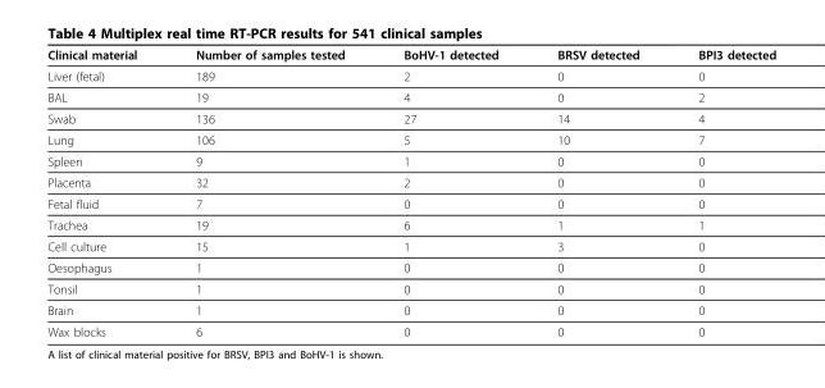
<table><thead><tr><td>Clinical material</td><td>Number of samples tested</td><td>BoHV-1 detected</td><td>BRSV detected</td><td>BPI3 detected</td></tr></thead><tbody><tr><td>Liver (fetal)</td><td>189</td><td>2</td><td>0</td><td>0</td></tr><tr><td>BAL</td><td>19</td><td>4</td><td>0</td><td>2</td></tr><tr><td>Swab</td><td>136</td><td>27</td><td>14</td><td>4</td></tr><tr><td>Lung</td><td>106</td><td>5</td><td>10</td><td>7</td></tr><tr><td>Spleen</td><td>9</td><td>1</td><td>0</td><td>0</td></tr><tr><td>Placenta</td><td>32</td><td>2</td><td>0</td><td>0</td></tr><tr><td>Fetal fluid</td><td>7</td><td>0</td><td>0</td><td>0</td></tr><tr><td>Trachea</td><td>19</td><td>6</td><td>1</td><td>1</td></tr><tr><td>Cell culture</td><td>15</td><td>1</td><td>3</td><td>0</td></tr><tr><td>Oesophagus</td><td>1</td><td>0</td><td>0</td><td>0</td></tr><tr><td>Tonsil</td><td>1</td><td>0</td><td>0</td><td>0</td></tr><tr><td>Brain</td><td>1</td><td>0</td><td>0</td><td>0</td></tr><tr><td>Wax blocks</td><td>6</td><td>0</td><td>0</td><td>0</td></tr></tbody></table>